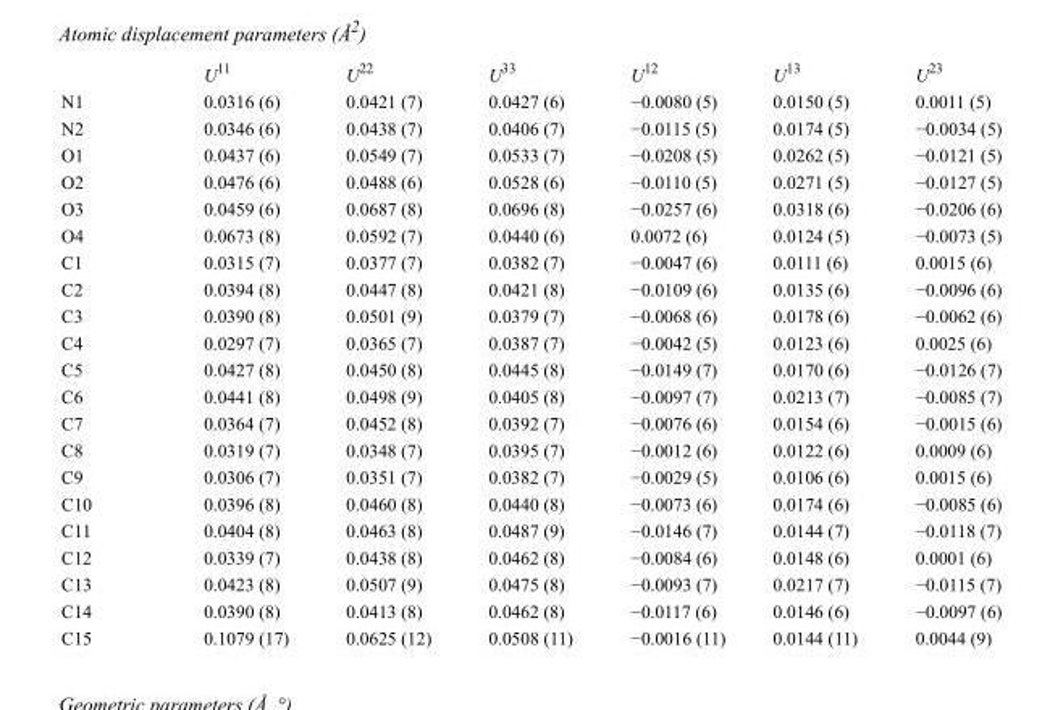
<table><thead><tr><td></td><td>U<sup>11</sup></td><td>U<sup>22</sup></td><td>U<sup>33</sup></td><td>U<sup>12</sup></td><td>U<sup>13</sup></td><td>U<sup>23</sup></td></tr></thead><tbody><tr><td>N1</td><td>0.0316 (6)</td><td>0.0421 (7)</td><td>0.0427 (6)</td><td>−0.0080 (5)</td><td>0.0150 (5)</td><td>0.0011 (5)</td></tr><tr><td>N2</td><td>0.0346 (6)</td><td>0.0438 (7)</td><td>0.0406 (7)</td><td>−0.0115 (5)</td><td>0.0174 (5)</td><td>−0.0034 (5)</td></tr><tr><td>O1</td><td>0.0437 (6)</td><td>0.0549 (7)</td><td>0.0533 (7)</td><td>−0.0208 (5)</td><td>0.0262 (5)</td><td>−0.0121 (5)</td></tr><tr><td>O2</td><td>0.0476 (6)</td><td>0.0488 (6)</td><td>0.0528 (6)</td><td>−0.0110 (5)</td><td>0.0271 (5)</td><td>−0.0127 (5)</td></tr><tr><td>O3</td><td>0.0459 (6)</td><td>0.0687 (8)</td><td>0.0696 (8)</td><td>−0.0257 (6)</td><td>0.0318 (6)</td><td>−0.0206 (6)</td></tr><tr><td>O4</td><td>0.0673 (8)</td><td>0.0592 (7)</td><td>0.0440 (6)</td><td>0.0072 (6)</td><td>0.0124 (5)</td><td>−0.0073 (5)</td></tr><tr><td>C1</td><td>0.0315 (7)</td><td>0.0377 (7)</td><td>0.0382 (7)</td><td>−0.0047 (6)</td><td>0.0111 (6)</td><td>0.0015 (6)</td></tr><tr><td>C2</td><td>0.0394 (8)</td><td>0.0447 (8)</td><td>0.0421 (8)</td><td>−0.0109 (6)</td><td>0.0135 (6)</td><td>−0.0096 (6)</td></tr><tr><td>C3</td><td>0.0390 (8)</td><td>0.0501 (9)</td><td>0.0379 (7)</td><td>−0.0068 (6)</td><td>0.0178 (6)</td><td>−0.0062 (6)</td></tr><tr><td>C4</td><td>0.0297 (7)</td><td>0.0365 (7)</td><td>0.0387 (7)</td><td>−0.0042 (5)</td><td>0.0123 (6)</td><td>0.0025 (6)</td></tr><tr><td>C5</td><td>0.0427 (8)</td><td>0.0450 (8)</td><td>0.0445 (8)</td><td>−0.0149 (7)</td><td>0.0170 (6)</td><td>−0.0126 (7)</td></tr><tr><td>C6</td><td>0.0441 (8)</td><td>0.0498 (9)</td><td>0.0405 (8)</td><td>−0.0097 (7)</td><td>0.0213 (7)</td><td>−0.0085 (7)</td></tr><tr><td>C7</td><td>0.0364 (7)</td><td>0.0452 (8)</td><td>0.0392 (7)</td><td>−0.0076 (6)</td><td>0.0154 (6)</td><td>−0.0015 (6)</td></tr><tr><td>C8</td><td>0.0319 (7)</td><td>0.0348 (7)</td><td>0.0395 (7)</td><td>−0.0012 (6)</td><td>0.0122 (6)</td><td>0.0009 (6)</td></tr><tr><td>C9</td><td>0.0306 (7)</td><td>0.0351 (7)</td><td>0.0382 (7)</td><td>−0.0029 (5)</td><td>0.0106 (6)</td><td>0.0015 (6)</td></tr><tr><td>C10</td><td>0.0396 (8)</td><td>0.0460 (8)</td><td>0.0440 (8)</td><td>−0.0073 (6)</td><td>0.0174 (6)</td><td>−0.0085 (6)</td></tr><tr><td>C11</td><td>0.0404 (8)</td><td>0.0463 (8)</td><td>0.0487 (9)</td><td>−0.0146 (7)</td><td>0.0144 (7)</td><td>−0.0118 (7)</td></tr><tr><td>C12</td><td>0.0339 (7)</td><td>0.0438 (8)</td><td>0.0462 (8)</td><td>−0.0084 (6)</td><td>0.0148 (6)</td><td>0.0001 (6)</td></tr><tr><td>C13</td><td>0.0423 (8)</td><td>0.0507 (9)</td><td>0.0475 (8)</td><td>−0.0093 (7)</td><td>0.0217 (7)</td><td>−0.0115 (7)</td></tr><tr><td>C14</td><td>0.0390 (8)</td><td>0.0413 (8)</td><td>0.0462 (8)</td><td>−0.0117 (6)</td><td>0.0146 (6)</td><td>−0.0097 (6)</td></tr><tr><td>C15</td><td>0.1079 (17)</td><td>0.0625 (12)</td><td>0.0508 (11)</td><td>−0.0016 (11)</td><td>0.0144 (11)</td><td>0.0044 (9)</td></tr></tbody></table>